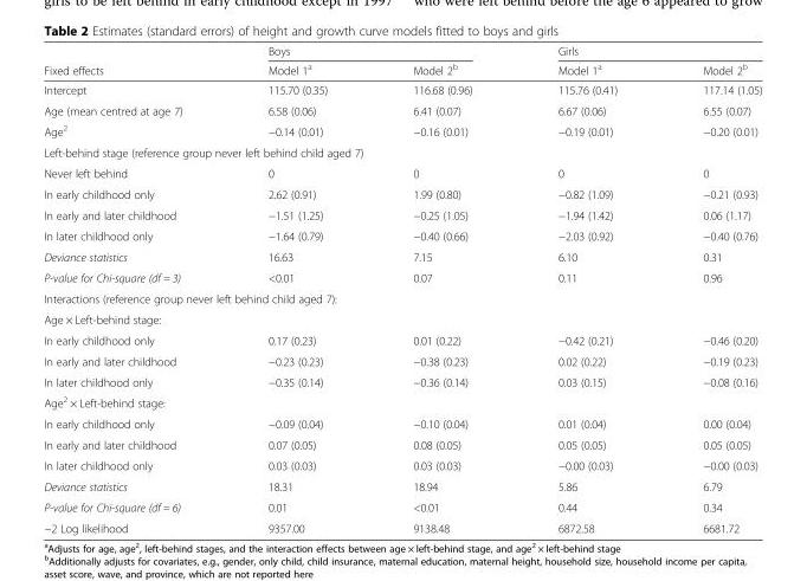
<table><thead><tr><td rowspan="2">Fixed effects</td><td colspan="2">Boys</td><td colspan="2">Girls</td></tr><tr><td>Model 1<sup>a</sup></td><td>Model 2<sup>b</sup></td><td>Model 1<sup>a</sup></td><td>Model 2<sup>b</sup></td></tr></thead><tbody><tr><td>Intercept</td><td>115.70 (0.35)</td><td>116.68 (0.96)</td><td>115.76 (0.41)</td><td>117.14 (1.05)</td></tr><tr><td>Age (mean centred at age 7)</td><td>6.58 (0.06)</td><td>6.41 (0.07)</td><td>6.67 (0.06)</td><td>6.55 (0.07)</td></tr><tr><td>Age<sup>2</sup></td><td>−0.14 (0.01)</td><td>−0.16 (0.01)</td><td>−0.19 (0.01)</td><td>−0.20 (0.01)</td></tr><tr><td colspan="5">Left-behind stage (reference group never left behind child aged 7)</td></tr><tr><td>Never left behind</td><td>0</td><td>0</td><td>0</td><td>0</td></tr><tr><td>In early childhood only</td><td>2.62 (0.91)</td><td>1.99 (0.80)</td><td>−0.82 (1.09)</td><td>−0.21 (0.93)</td></tr><tr><td>In early and later childhood</td><td>−1.51 (1.25)</td><td>−0.25 (1.05)</td><td>−1.94 (1.42)</td><td>0.06 (1.17)</td></tr><tr><td>In later childhood only</td><td>−1.64 (0.79)</td><td>−0.40 (0.66)</td><td>−2.03 (0.92)</td><td>−0.40 (0.76)</td></tr><tr><td>Deviance statistics</td><td>16.63</td><td>7.15</td><td>6.10</td><td>0.31</td></tr><tr><td>P-value for Chi-square (df = 3)</td><td>&lt;0.01</td><td>0.07</td><td>0.11</td><td>0.96</td></tr><tr><td colspan="5">Interactions (reference group never left behind child aged 7):</td></tr><tr><td colspan="5">Age × Left-behind stage:</td></tr><tr><td>In early childhood only</td><td>0.17 (0.23)</td><td>0.01 (0.22)</td><td>−0.42 (0.21)</td><td>−0.46 (0.20)</td></tr><tr><td>In early and later childhood</td><td>−0.23 (0.23)</td><td>−0.38 (0.23)</td><td>0.02 (0.22)</td><td>−0.19 (0.23)</td></tr><tr><td>In later childhood only</td><td>−0.35 (0.14)</td><td>−0.36 (0.14)</td><td>0.03 (0.15)</td><td>−0.08 (0.16)</td></tr><tr><td colspan="5">Age<sup>2</sup> × Left-behind stage:</td></tr><tr><td>In early childhood only</td><td>−0.09 (0.04)</td><td>−0.10 (0.04)</td><td>0.01 (0.04)</td><td>0.00 (0.04)</td></tr><tr><td>In early and later childhood</td><td>0.07 (0.05)</td><td>0.08 (0.05)</td><td>0.05 (0.05)</td><td>0.05 (0.05)</td></tr><tr><td>In later childhood only</td><td>0.03 (0.03)</td><td>0.03 (0.03)</td><td>−0.00 (0.03)</td><td>−0.00 (0.03)</td></tr><tr><td>Deviance statistics</td><td>18.31</td><td>18.94</td><td>5.86</td><td>6.79</td></tr><tr><td>P-value for Chi-square (df = 6)</td><td>0.01</td><td>&lt;0.01</td><td>0.44</td><td>0.34</td></tr><tr><td>−2 Log likelihood</td><td>9357.00</td><td>9138.48</td><td>6872.58</td><td>6681.72</td></tr></tbody></table>